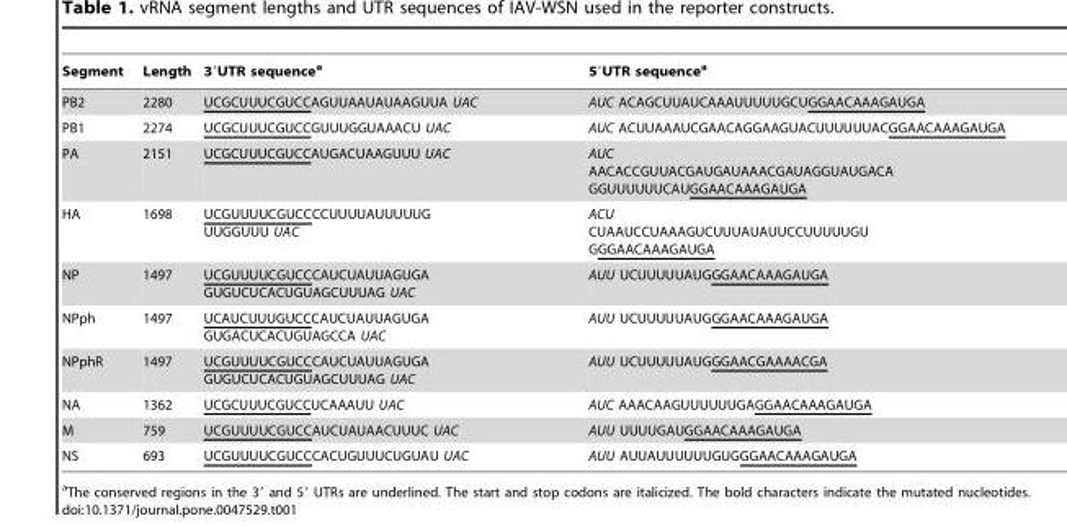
<table><thead><tr><td>Segment</td><td>Length</td><td>3′UTR sequence<sup>a</sup></td><td>5′UTR sequence<sup>a</sup></td></tr></thead><tbody><tr><td>PB2</td><td>2280</td><td>UCGCUUUCGUCCAGUUAAUAUAAGUUA UAC</td><td>AUC ACAGCUUAUCAAAUUUUUGCUGGAACAAAGAUGA</td></tr><tr><td>PB1</td><td>2274</td><td>UCGCUUUCGUCCGUUUGGUAAACU UAC</td><td>AUC ACUUAAAUCGAACAGGAAGUACUUUUUUACGGAACAAAGAUGA</td></tr><tr><td>PA</td><td>2151</td><td>UCGCUUUCGUCCAUGACUAAGUUU UAC</td><td>AUC AACACCGUUACGAUGAUAAACGAUAGGUAUGACA GGUUUUUUCAUGGAACAAAGAUGA</td></tr><tr><td>HA</td><td>1698</td><td>UCGUUUUCGUCCCCUUUUAUUUUUG UUGGUUU UAC</td><td>ACU CUAAUCCUAAAGUCUUUAUAUUCCUUUUUGU GGGAACAAAGAUGA</td></tr><tr><td>NP</td><td>1497</td><td>UCGUUUUCGUCCCAUCUAUUAGUGA GUGUCUCACUGUAGCUUUAG UAC</td><td>AUU UCUUUUUAUGGGAACAAAGAUGA</td></tr><tr><td>NPph</td><td>1497</td><td>UCAUCUUUGUCCCAUCUAUUAGUGA GUGACUCACUGUAGCCA UAC</td><td>AUU UCUUUUUAUGGGAACAAAGAUGA</td></tr><tr><td>NPphR</td><td>1497</td><td>UCGUUUUCGUCCCAUCUAUUAGUGA GUGUCUCACUGUAGCUUUAG UAC</td><td>AUU UCUUUUUAUGGGAACGAAAACGA</td></tr><tr><td>NA</td><td>1362</td><td>UCGCUUUCGUCCUCAAAUU UAC</td><td>AUC AAACAAGUUUUUUGAGGAACAAAGAUGA</td></tr><tr><td>M</td><td>759</td><td>UCGUUUUCGUCCAUCUAUAACUUUC UAC</td><td>AUU UUUUGAUGGAACAAAGAUGA</td></tr><tr><td>NS</td><td>693</td><td>UCGUUUUCGUCCCACUGUUUCUGUAU UAC</td><td>AUU AUUAUUUUUUGUGGGAACAAAGAUGA</td></tr></tbody></table>